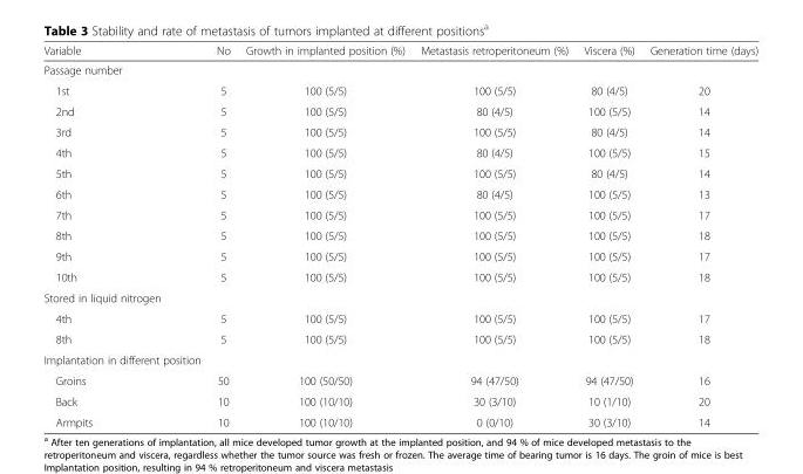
<table><thead><tr><td>Variable</td><td>No</td><td>Growth in implanted position (%)</td><td>Metastasis retroperitoneum (%)</td><td>Viscera (%)</td><td>Generation time (days)</td></tr></thead><tbody><tr><td colspan="6">Passage number</td></tr><tr><td>1st</td><td>5</td><td>100 (5/5)</td><td>100 (5/5)</td><td>80 (4/5)</td><td>20</td></tr><tr><td>2nd</td><td>5</td><td>100 (5/5)</td><td>80 (4/5)</td><td>100 (5/5)</td><td>14</td></tr><tr><td>3rd</td><td>5</td><td>100 (5/5)</td><td>100 (5/5)</td><td>80 (4/5)</td><td>14</td></tr><tr><td>4th</td><td>5</td><td>100 (5/5)</td><td>80 (4/5)</td><td>100 (5/5)</td><td>15</td></tr><tr><td>5th</td><td>5</td><td>100 (5/5)</td><td>100 (5/5)</td><td>80 (4/5)</td><td>14</td></tr><tr><td>6th</td><td>5</td><td>100 (5/5)</td><td>80 (4/5)</td><td>100 (5/5)</td><td>13</td></tr><tr><td>7th</td><td>5</td><td>100 (5/5)</td><td>100 (5/5)</td><td>100 (5/5)</td><td>17</td></tr><tr><td>8th</td><td>5</td><td>100 (5/5)</td><td>100 (5/5)</td><td>100 (5/5)</td><td>18</td></tr><tr><td>9th</td><td>5</td><td>100 (5/5)</td><td>100 (5/5)</td><td>100 (5/5)</td><td>17</td></tr><tr><td>10th</td><td>5</td><td>100 (5/5)</td><td>100 (5/5)</td><td>100 (5/5)</td><td>18</td></tr><tr><td colspan="6">Stored in liquid nitrogen</td></tr><tr><td>4th</td><td>5</td><td>100 (5/5)</td><td>100 (5/5)</td><td>100 (5/5)</td><td>17</td></tr><tr><td>8th</td><td>5</td><td>100 (5/5)</td><td>100 (5/5)</td><td>100 (5/5)</td><td>18</td></tr><tr><td colspan="6">Implantation in different position</td></tr><tr><td>Groins</td><td>50</td><td>100 (50/50)</td><td>94 (47/50)</td><td>94 (47/50)</td><td>16</td></tr><tr><td>Back</td><td>10</td><td>100 (10/10)</td><td>30 (3/10)</td><td>10 (1/10)</td><td>20</td></tr><tr><td>Armpits</td><td>10</td><td>100 (10/10)</td><td>0 (0/10)</td><td>30 (3/10)</td><td>14</td></tr></tbody></table>